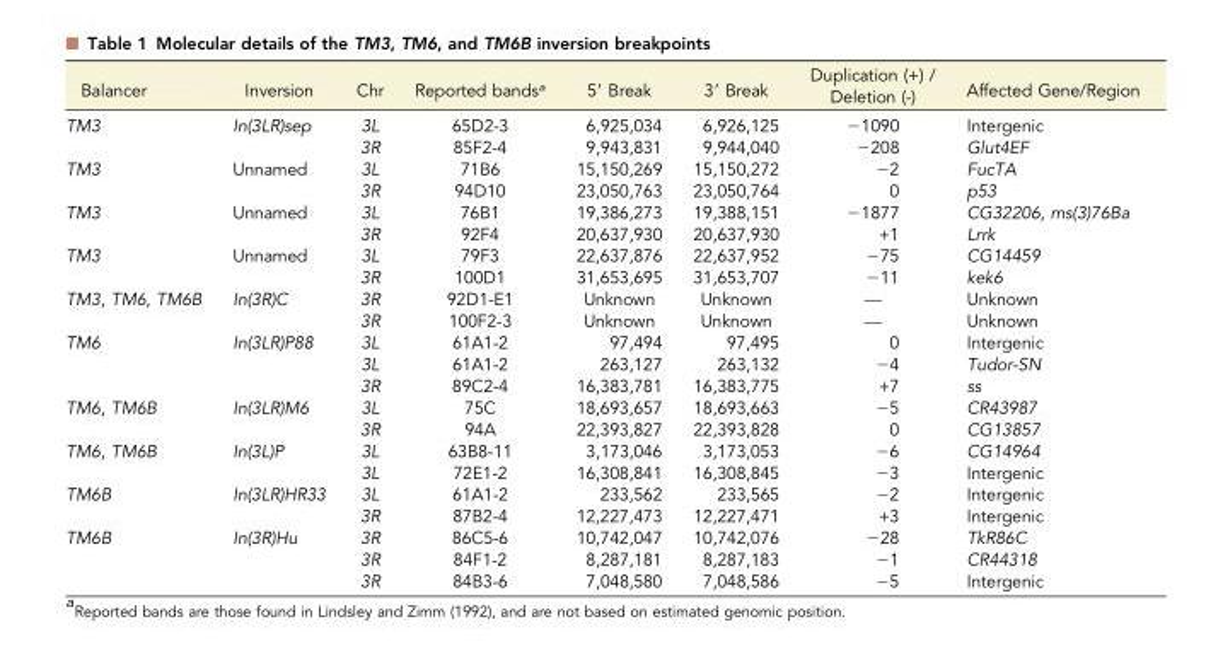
<table><thead><tr><td>Balancer</td><td>Inversion</td><td>Chr</td><td>Reported bands<sup>a</sup></td><td>5′ Break</td><td>3′ Break</td><td>Duplication (+) / Deletion (-)</td><td>Affected Gene/Region</td></tr></thead><tbody><tr><td rowspan="2">TM3</td><td rowspan="2">In(3LR)sep</td><td>3L</td><td>65D2-3</td><td>6,925,034</td><td>6,926,125</td><td>−1090</td><td>Intergenic</td></tr><tr><td>3R</td><td>85F2-4</td><td>9,943,831</td><td>9,944,040</td><td>−208</td><td>Glut4EF</td></tr><tr><td rowspan="2">TM3</td><td rowspan="2">Unnamed</td><td>3L</td><td>71B6</td><td>15,150,269</td><td>15,150,272</td><td>−2</td><td>FucTA</td></tr><tr><td>3R</td><td>94D10</td><td>23,050,763</td><td>23,050,764</td><td>0</td><td>p53</td></tr><tr><td rowspan="2">TM3</td><td rowspan="2">Unnamed</td><td>3L</td><td>76B1</td><td>19,386,273</td><td>19,388,151</td><td>−1877</td><td>CG32206, ms(3)76Ba</td></tr><tr><td>3R</td><td>92F4</td><td>20,637,930</td><td>20,637,930</td><td>+1</td><td>Lrrk</td></tr><tr><td rowspan="2">TM3</td><td rowspan="2">Unnamed</td><td>3L</td><td>79F3</td><td>22,637,876</td><td>22,637,952</td><td>−75</td><td>CG14459</td></tr><tr><td>3R</td><td>100D1</td><td>31,653,695</td><td>31,653,707</td><td>−11</td><td>kek6</td></tr><tr><td rowspan="2">TM3, TM6, TM6B</td><td rowspan="2">In(3R)C</td><td>3R</td><td>92D1-E1</td><td>Unknown</td><td>Unknown</td><td>—</td><td>Unknown</td></tr><tr><td>3R</td><td>100F2-3</td><td>Unknown</td><td>Unknown</td><td>—</td><td>Unknown</td></tr><tr><td rowspan="3">TM6</td><td rowspan="3">In(3LR)P88</td><td>3L</td><td>61A1-2</td><td>97,494</td><td>97,495</td><td>0</td><td>Intergenic</td></tr><tr><td>3L</td><td>61A1-2</td><td>263,127</td><td>263,132</td><td>−4</td><td>Tudor-SN</td></tr><tr><td>3R</td><td>89C2-4</td><td>16,383,781</td><td>16,383,775</td><td>+7</td><td>ss</td></tr><tr><td rowspan="2">TM6, TM6B</td><td rowspan="2">In(3LR)M6</td><td>3L</td><td>75C</td><td>18,693,657</td><td>18,693,663</td><td>−5</td><td>CR43987</td></tr><tr><td>3R</td><td>94A</td><td>22,393,827</td><td>22,393,828</td><td>0</td><td>CG13857</td></tr><tr><td rowspan="2">TM6, TM6B</td><td rowspan="2">In(3L)P</td><td>3L</td><td>63B8-11</td><td>3,173,046</td><td>3,173,053</td><td>−6</td><td>CG14964</td></tr><tr><td>3L</td><td>72E1-2</td><td>16,308,841</td><td>16,308,845</td><td>−3</td><td>Intergenic</td></tr><tr><td rowspan="2">TM6B</td><td rowspan="2">In(3LR)HR33</td><td>3L</td><td>61A1-2</td><td>233,562</td><td>233,565</td><td>−2</td><td>Intergenic</td></tr><tr><td>3R</td><td>87B2-4</td><td>12,227,473</td><td>12,227,471</td><td>+3</td><td>Intergenic</td></tr><tr><td rowspan="3">TM6B</td><td rowspan="3">In(3R)Hu</td><td>3R</td><td>86C5-6</td><td>10,742,047</td><td>10,742,076</td><td>−28</td><td>TkR86C</td></tr><tr><td>3R</td><td>84F1-2</td><td>8,287,181</td><td>8,287,183</td><td>−1</td><td>CR44318</td></tr><tr><td>3R</td><td>84B3-6</td><td>7,048,580</td><td>7,048,586</td><td>−5</td><td>Intergenic</td></tr></tbody></table>